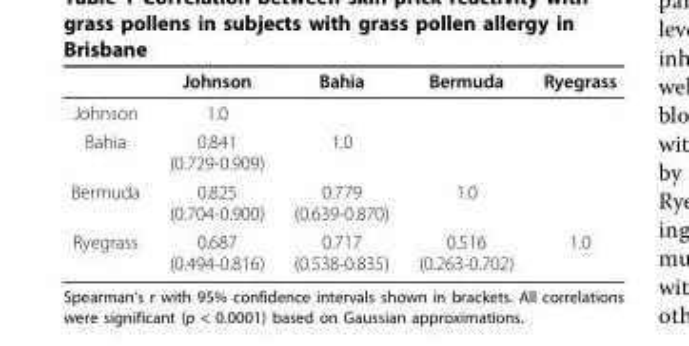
<table><thead><tr><td></td><td>Johnson</td><td>Bahia</td><td>Bermuda</td><td>Ryegrass</td></tr></thead><tbody><tr><td>Johnson</td><td>1.0</td><td></td><td></td><td></td></tr><tr><td>Bahia</td><td>0.841 (0.729-0.909)</td><td>1.0</td><td></td><td></td></tr><tr><td>Bermuda</td><td>0.825 (0.704-0.900)</td><td>0.779 (0.639-0.870)</td><td>1.0</td><td></td></tr><tr><td>Ryegrass</td><td>0.687 (0.494-0.816)</td><td>0.717 (0.538-0.835)</td><td>0.516 (0.263-0.702)</td><td>1.0</td></tr></tbody></table>